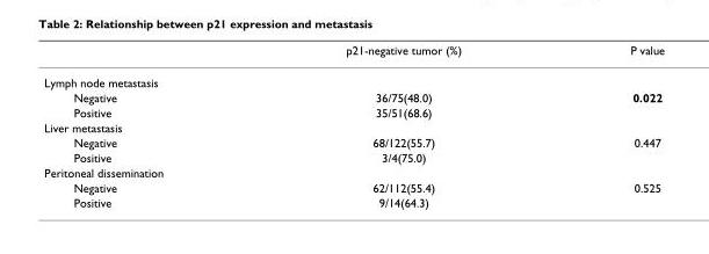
<table><thead><tr><td></td><td>p21-negative tumor (%)</td><td>P value</td></tr></thead><tbody><tr><td colspan="3">Lymph node metastasis</td></tr><tr><td>Negative</td><td>36/75(48.0)</td><td>0.022</td></tr><tr><td>Positive</td><td>35/51(68.6)</td><td></td></tr><tr><td colspan="3">Liver metastasis</td></tr><tr><td>Negative</td><td>68/122(55.7)</td><td>0.447</td></tr><tr><td>Positive</td><td>3/4(75.0)</td><td></td></tr><tr><td colspan="3">Peritoneal dissemination</td></tr><tr><td>Negative</td><td>62/112(55.4)</td><td>0.525</td></tr><tr><td>Positive</td><td>9/14(64.3)</td><td></td></tr></tbody></table>